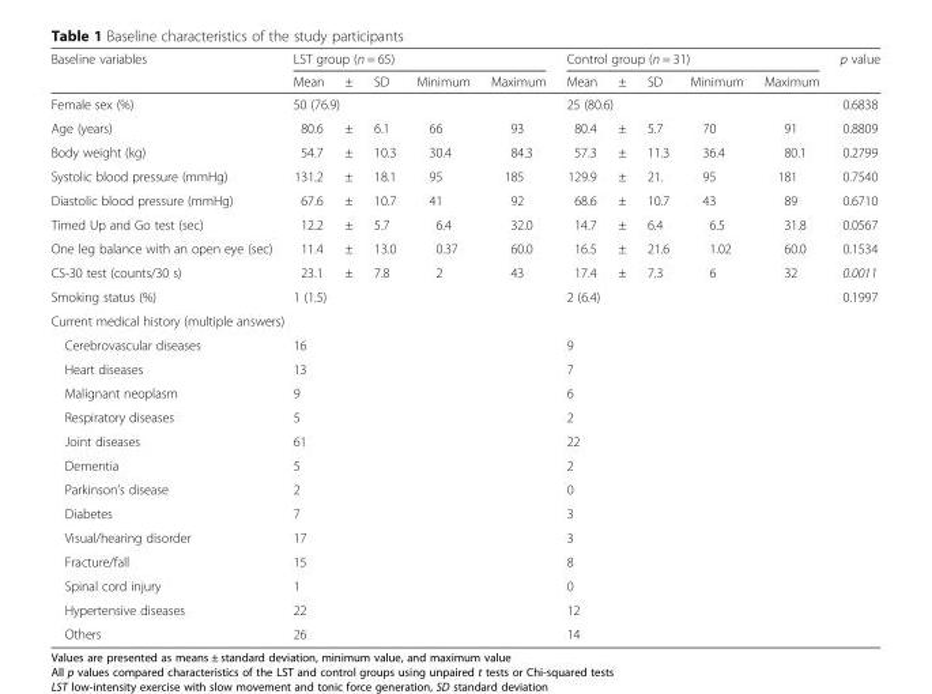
<table><thead><tr><td rowspan="2">Baseline variables</td><td colspan="5">LST group (n = 65)</td><td colspan="5">Control group (n = 31)</td><td rowspan="2">p value</td></tr><tr><td>Mean</td><td>±</td><td>SD</td><td>Minimum</td><td>Maximum</td><td>Mean</td><td>±</td><td>SD</td><td>Minimum</td><td>Maximum</td></tr></thead><tbody><tr><td>Female sex (%)</td><td colspan="3">50 (76.9)</td><td></td><td></td><td colspan="3">25 (80.6)</td><td></td><td></td><td>0.6838</td></tr><tr><td>Age (years)</td><td>80.6</td><td>±</td><td>6.1</td><td>66</td><td>93</td><td>80.4</td><td>±</td><td>5.7</td><td>70</td><td>91</td><td>0.8809</td></tr><tr><td>Body weight (kg)</td><td>54.7</td><td>±</td><td>10.3</td><td>30.4</td><td>84.3</td><td>57.3</td><td>±</td><td>11.3</td><td>36.4</td><td>80.1</td><td>0.2799</td></tr><tr><td>Systolic blood pressure (mmHg)</td><td>131.2</td><td>±</td><td>18.1</td><td>95</td><td>185</td><td>129.9</td><td>±</td><td>21.</td><td>95</td><td>181</td><td>0.7540</td></tr><tr><td>Diastolic blood pressure (mmHg)</td><td>67.6</td><td>±</td><td>10.7</td><td>41</td><td>92</td><td>68.6</td><td>±</td><td>10.7</td><td>43</td><td>89</td><td>0.6710</td></tr><tr><td>Timed Up and Go test (sec)</td><td>12.2</td><td>±</td><td>5.7</td><td>6.4</td><td>32.0</td><td>14.7</td><td>±</td><td>6.4</td><td>6.5</td><td>31.8</td><td>0.0567</td></tr><tr><td>One leg balance with an open eye (sec)</td><td>11.4</td><td>±</td><td>13.0</td><td>0.37</td><td>60.0</td><td>16.5</td><td>±</td><td>21.6</td><td>1.02</td><td>60.0</td><td>0.1534</td></tr><tr><td>CS-30 test (counts/30 s)</td><td>23.1</td><td>±</td><td>7.8</td><td>2</td><td>43</td><td>17.4</td><td>±</td><td>7.3</td><td>6</td><td>32</td><td>0.0011</td></tr><tr><td>Smoking status (%)</td><td colspan="3">1 (1.5)</td><td></td><td></td><td colspan="3">2 (6.4)</td><td></td><td></td><td>0.1997</td></tr><tr><td colspan="12">Current medical history (multiple answers)</td></tr><tr><td>Cerebrovascular diseases</td><td colspan="3">16</td><td></td><td></td><td colspan="3">9</td><td></td><td></td><td></td></tr><tr><td>Heart diseases</td><td colspan="3">13</td><td></td><td></td><td colspan="3">7</td><td></td><td></td><td></td></tr><tr><td>Malignant neoplasm</td><td colspan="3">9</td><td></td><td></td><td colspan="3">6</td><td></td><td></td><td></td></tr><tr><td>Respiratory diseases</td><td colspan="3">5</td><td></td><td></td><td colspan="3">2</td><td></td><td></td><td></td></tr><tr><td>Joint diseases</td><td colspan="3">61</td><td></td><td></td><td colspan="3">22</td><td></td><td></td><td></td></tr><tr><td>Dementia</td><td colspan="3">5</td><td></td><td></td><td colspan="3">2</td><td></td><td></td><td></td></tr><tr><td>Parkinson’s disease</td><td colspan="3">2</td><td></td><td></td><td colspan="3">0</td><td></td><td></td><td></td></tr><tr><td>Diabetes</td><td colspan="3">7</td><td></td><td></td><td colspan="3">3</td><td></td><td></td><td></td></tr><tr><td>Visual/hearing disorder</td><td colspan="3">17</td><td></td><td></td><td colspan="3">3</td><td></td><td></td><td></td></tr><tr><td>Fracture/fall</td><td colspan="3">15</td><td></td><td></td><td colspan="3">8</td><td></td><td></td><td></td></tr><tr><td>Spinal cord injury</td><td colspan="3">1</td><td></td><td></td><td colspan="3">0</td><td></td><td></td><td></td></tr><tr><td>Hypertensive diseases</td><td colspan="3">22</td><td></td><td></td><td colspan="3">12</td><td></td><td></td><td></td></tr><tr><td>Others</td><td colspan="3">26</td><td></td><td></td><td colspan="3">14</td><td></td><td></td><td></td></tr></tbody></table>